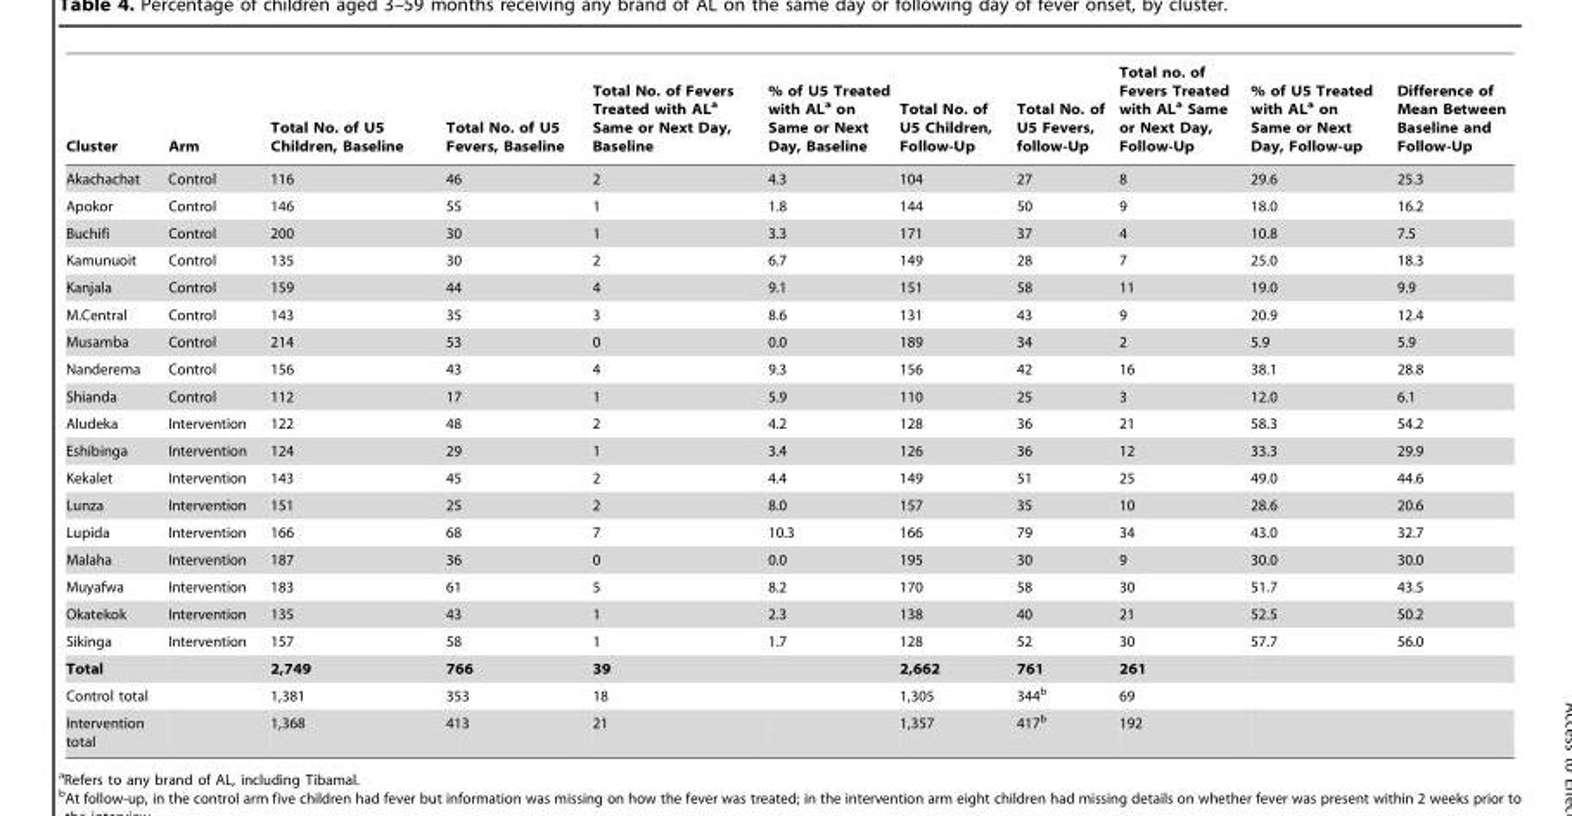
<table><thead><tr><td>Cluster</td><td>Arm</td><td>Total No. of U5 Children, Baseline</td><td>Total No. of U5 Fevers, Baseline</td><td>Total No. of Fevers Treated with AL<sup>a</sup> Same or Next Day, Baseline</td><td>% of U5 Treated with AL<sup>a</sup> on Same or Next Day, Baseline</td><td>Total No. of U5 Children, Follow-Up</td><td>Total No. of U5 Fevers, follow-Up</td><td>Total no. of Fevers Treated with AL<sup>a</sup> Same or Next Day, Follow-Up</td><td>% of U5 Treated with AL<sup>a</sup> on Same or Next Day, Follow-up</td><td>Difference of Mean Between Baseline and Follow-Up</td></tr></thead><tbody><tr><td>Akachachat</td><td>Control</td><td>116</td><td>46</td><td>2</td><td>4.3</td><td>104</td><td>27</td><td>8</td><td>29.6</td><td>25.3</td></tr><tr><td>Apokor</td><td>Control</td><td>146</td><td>55</td><td>1</td><td>1.8</td><td>144</td><td>50</td><td>9</td><td>18.0</td><td>16.2</td></tr><tr><td>Buchifi</td><td>Control</td><td>200</td><td>30</td><td>1</td><td>3.3</td><td>171</td><td>37</td><td>4</td><td>10.8</td><td>7.5</td></tr><tr><td>Kamunuoit</td><td>Control</td><td>135</td><td>30</td><td>2</td><td>6.7</td><td>149</td><td>28</td><td>7</td><td>25.0</td><td>18.3</td></tr><tr><td>Kanjala</td><td>Control</td><td>159</td><td>44</td><td>4</td><td>9.1</td><td>151</td><td>58</td><td>11</td><td>19.0</td><td>9.9</td></tr><tr><td>M.Central</td><td>Control</td><td>143</td><td>35</td><td>3</td><td>8.6</td><td>131</td><td>43</td><td>9</td><td>20.9</td><td>12.4</td></tr><tr><td>Musamba</td><td>Control</td><td>214</td><td>53</td><td>0</td><td>0.0</td><td>189</td><td>34</td><td>2</td><td>5.9</td><td>5.9</td></tr><tr><td>Nanderema</td><td>Control</td><td>156</td><td>43</td><td>4</td><td>9.3</td><td>156</td><td>42</td><td>16</td><td>38.1</td><td>28.8</td></tr><tr><td>Shianda</td><td>Control</td><td>112</td><td>17</td><td>1</td><td>5.9</td><td>110</td><td>25</td><td>3</td><td>12.0</td><td>6.1</td></tr><tr><td>Aludeka</td><td>Intervention</td><td>122</td><td>48</td><td>2</td><td>4.2</td><td>128</td><td>36</td><td>21</td><td>58.3</td><td>54.2</td></tr><tr><td>Eshibinga</td><td>Intervention</td><td>124</td><td>29</td><td>1</td><td>3.4</td><td>126</td><td>36</td><td>12</td><td>33.3</td><td>29.9</td></tr><tr><td>Kekalet</td><td>Intervention</td><td>143</td><td>45</td><td>2</td><td>4.4</td><td>149</td><td>51</td><td>25</td><td>49.0</td><td>44.6</td></tr><tr><td>Lunza</td><td>Intervention</td><td>151</td><td>25</td><td>2</td><td>8.0</td><td>157</td><td>35</td><td>10</td><td>28.6</td><td>20.6</td></tr><tr><td>Lupida</td><td>Intervention</td><td>166</td><td>68</td><td>7</td><td>10.3</td><td>166</td><td>79</td><td>34</td><td>43.0</td><td>32.7</td></tr><tr><td>Malaha</td><td>Intervention</td><td>187</td><td>36</td><td>0</td><td>0.0</td><td>195</td><td>30</td><td>9</td><td>30.0</td><td>30.0</td></tr><tr><td>Muyafwa</td><td>Intervention</td><td>183</td><td>61</td><td>5</td><td>8.2</td><td>170</td><td>58</td><td>30</td><td>51.7</td><td>43.5</td></tr><tr><td>Okatekok</td><td>Intervention</td><td>135</td><td>43</td><td>1</td><td>2.3</td><td>138</td><td>40</td><td>21</td><td>52.5</td><td>50.2</td></tr><tr><td>Sikinga</td><td>Intervention</td><td>157</td><td>58</td><td>1</td><td>1.7</td><td>128</td><td>52</td><td>30</td><td>57.7</td><td>56.0</td></tr><tr><td>Total</td><td></td><td>2,749</td><td>766</td><td>39</td><td></td><td>2,662</td><td>761</td><td>261</td><td></td><td></td></tr><tr><td>Control total</td><td></td><td>1,381</td><td>353</td><td>18</td><td></td><td>1,305</td><td>344<sup>b</sup></td><td>69</td><td></td><td></td></tr><tr><td>Intervention total</td><td></td><td>1,368</td><td>413</td><td>21</td><td></td><td>1,357</td><td>417<sup>b</sup></td><td>192</td><td></td><td></td></tr></tbody></table>